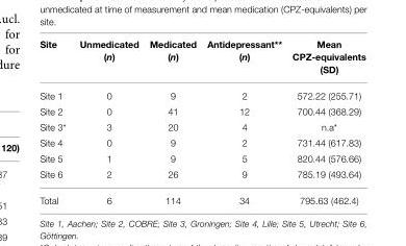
<table><thead><tr><td>Site</td><td>Unmedicated (n)</td><td>Medicated (n)</td><td>Antidepressant** (n)</td><td>Mean CPZ-equivalents (SD)</td></tr></thead><tbody><tr><td>Site 1</td><td>0</td><td>9</td><td>2</td><td>572.22 (255.71)</td></tr><tr><td>Site 2</td><td>0</td><td>41</td><td>12</td><td>700.44 (368.29)</td></tr><tr><td>Site 3*</td><td>3</td><td>20</td><td>4</td><td>n.a*</td></tr><tr><td>Site 4</td><td>0</td><td>9</td><td>2</td><td>731.44 (617.83)</td></tr><tr><td>Site 5</td><td>1</td><td>9</td><td>5</td><td>820.44 (576.66)</td></tr><tr><td>Site 6</td><td>2</td><td>26</td><td>9</td><td>785.19 (493.64)</td></tr><tr><td>Total</td><td>6</td><td>114</td><td>34</td><td>795.63 (462.4)</td></tr></tbody></table>